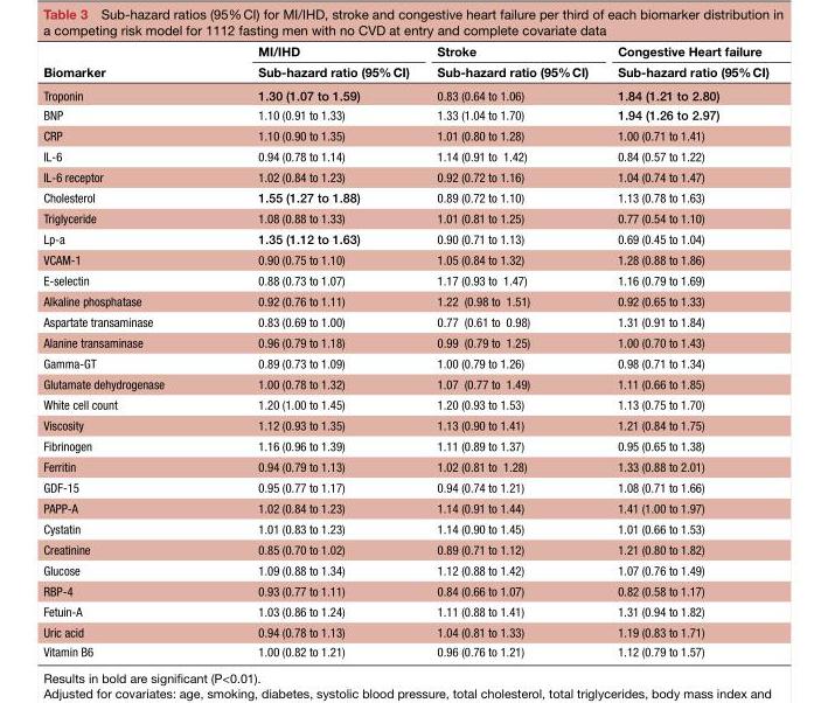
<table><thead><tr><td rowspan="2">Biomarker</td><td rowspan="2">MI/IHD Sub-hazard ratio (95% CI)</td><td rowspan="2">Stroke Sub-hazard ratio (95% CI)</td><td rowspan="2">Congestive Heart failure Sub-hazard ratio (95% CI)</td></tr><tr></tr></thead><tbody><tr><td>Troponin</td><td>1.30 (1.07 to 1.59)</td><td>0.83 (0.64 to 1.06)</td><td>1.84 (1.21 to 2.80)</td></tr><tr><td>BNP</td><td>1.10 (0.91 to 1.33)</td><td>1.33 (1.04 to 1.70)</td><td>1.94 (1.26 to 2.97)</td></tr><tr><td>CRP</td><td>1.10 (0.90 to 1.35)</td><td>1.01 (0.80 to 1.28)</td><td>1.00 (0.71 to 1.41)</td></tr><tr><td>IL-6</td><td>0.94 (0.78 to 1.14)</td><td>1.14 (0.91 to 1.42)</td><td>0.84 (0.57 to 1.22)</td></tr><tr><td>IL-6 receptor</td><td>1.02 (0.84 to 1.23)</td><td>0.92 (0.72 to 1.16)</td><td>1.04 (0.74 to 1.47)</td></tr><tr><td>Cholesterol</td><td>1.55 (1.27 to 1.88)</td><td>0.89 (0.72 to 1.10)</td><td>1.13 (0.78 to 1.63)</td></tr><tr><td>Triglyceride</td><td>1.08 (0.88 to 1.33)</td><td>1.01 (0.81 to 1.25)</td><td>0.77 (0.54 to 1.10)</td></tr><tr><td>Lp-a</td><td>1.35 (1.12 to 1.63)</td><td>0.90 (0.71 to 1.13)</td><td>0.69 (0.45 to 1.04)</td></tr><tr><td>VCAM-1</td><td>0.90 (0.75 to 1.10)</td><td>1.05 (0.84 to 1.32)</td><td>1.28 (0.88 to 1.86)</td></tr><tr><td>E-selectin</td><td>0.88 (0.73 to 1.07)</td><td>1.17 (0.93 to 1.47)</td><td>1.16 (0.79 to 1.69)</td></tr><tr><td>Alkaline phosphatase</td><td>0.92 (0.76 to 1.11)</td><td>1.22 (0.98 to 1.51)</td><td>0.92 (0.65 to 1.33)</td></tr><tr><td>Aspartate transaminase</td><td>0.83 (0.69 to 1.00)</td><td>0.77 (0.61 to 0.98)</td><td>1.31 (0.91 to 1.84)</td></tr><tr><td>Alanine transaminase</td><td>0.96 (0.79 to 1.18)</td><td>0.99 (0.79 to 1.25)</td><td>1.00 (0.70 to 1.43)</td></tr><tr><td>Gamma-GT</td><td>0.89 (0.73 to 1.09)</td><td>1.00 (0.79 to 1.26)</td><td>0.98 (0.71 to 1.34)</td></tr><tr><td>Glutamate dehydrogenase</td><td>1.00 (0.78 to 1.32)</td><td>1.07 (0.77 to 1.49)</td><td>1.11 (0.66 to 1.85)</td></tr><tr><td>White cell count</td><td>1.20 (1.00 to 1.45)</td><td>1.20 (0.93 to 1.53)</td><td>1.13 (0.75 to 1.70)</td></tr><tr><td>Viscosity</td><td>1.12 (0.93 to 1.35)</td><td>1.13 (0.90 to 1.41)</td><td>1.21 (0.84 to 1.75)</td></tr><tr><td>Fibrinogen</td><td>1.16 (0.96 to 1.39)</td><td>1.11 (0.89 to 1.37)</td><td>0.95 (0.65 to 1.38)</td></tr><tr><td>Ferritin</td><td>0.94 (0.79 to 1.13)</td><td>1.02 (0.81 to 1.28)</td><td>1.33 (0.88 to 2.01)</td></tr><tr><td>GDF-15</td><td>0.95 (0.77 to 1.17)</td><td>0.94 (0.74 to 1.21)</td><td>1.08 (0.71 to 1.66)</td></tr><tr><td>PAPP-A</td><td>1.02 (0.84 to 1.23)</td><td>1.14 (0.91 to 1.44)</td><td>1.41 (1.00 to 1.97)</td></tr><tr><td>Cystatin</td><td>1.01 (0.83 to 1.23)</td><td>1.14 (0.90 to 1.45)</td><td>1.01 (0.66 to 1.53)</td></tr><tr><td>Creatinine</td><td>0.85 (0.70 to 1.02)</td><td>0.89 (0.71 to 1.12)</td><td>1.21 (0.80 to 1.82)</td></tr><tr><td>Glucose</td><td>1.09 (0.88 to 1.34)</td><td>1.12 (0.88 to 1.42)</td><td>1.07 (0.76 to 1.49)</td></tr><tr><td>RBP-4</td><td>0.93 (0.77 to 1.11)</td><td>0.84 (0.66 to 1.07)</td><td>0.82 (0.58 to 1.17)</td></tr><tr><td>Fetuin-A</td><td>1.03 (0.86 to 1.24)</td><td>1.11 (0.88 to 1.41)</td><td>1.31 (0.94 to 1.82)</td></tr><tr><td>Uric acid</td><td>0.94 (0.78 to 1.13)</td><td>1.04 (0.81 to 1.33)</td><td>1.19 (0.83 to 1.71)</td></tr><tr><td>Vitamin B6</td><td>1.00 (0.82 to 1.21)</td><td>0.96 (0.76 to 1.21)</td><td>1.12 (0.79 to 1.57)</td></tr></tbody></table>